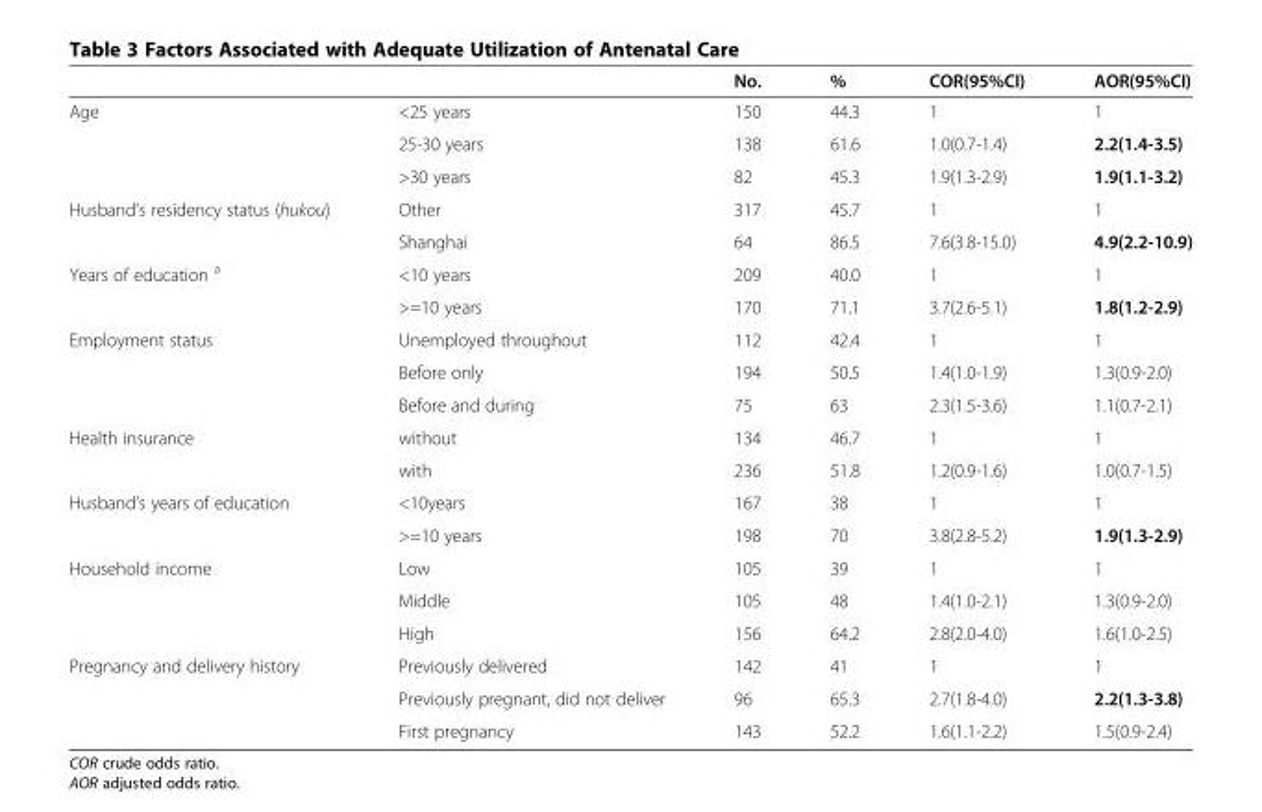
<table><thead><tr><td></td><td></td><td>No.</td><td>%</td><td>COR(95%CI)</td><td>AOR(95%CI)</td></tr></thead><tbody><tr><td rowspan="3">Age</td><td>&lt;25 years</td><td>150</td><td>44.3</td><td>1</td><td>1</td></tr><tr><td>25-30 years</td><td>138</td><td>61.6</td><td>1.0(0.7-1.4)</td><td>2.2(1.4-3.5)</td></tr><tr><td>&gt;30 years</td><td>82</td><td>45.3</td><td>1.9(1.3-2.9)</td><td>1.9(1.1-3.2)</td></tr><tr><td rowspan="2">Husband’s residency status (hukou)</td><td>Other</td><td>317</td><td>45.7</td><td>1</td><td>1</td></tr><tr><td>Shanghai</td><td>64</td><td>86.5</td><td>7.6(3.8-15.0)</td><td>4.9(2.2-10.9)</td></tr><tr><td rowspan="2">Years of education <sup>a</sup></td><td>&lt;10 years</td><td>209</td><td>40.0</td><td>1</td><td>1</td></tr><tr><td>&gt;=10 years</td><td>170</td><td>71.1</td><td>3.7(2.6-5.1)</td><td>1.8(1.2-2.9)</td></tr><tr><td rowspan="3">Employment status</td><td>Unemployed throughout</td><td>112</td><td>42.4</td><td>1</td><td>1</td></tr><tr><td>Before only</td><td>194</td><td>50.5</td><td>1.4(1.0-1.9)</td><td>1.3(0.9-2.0)</td></tr><tr><td>Before and during</td><td>75</td><td>63</td><td>2.3(1.5-3.6)</td><td>1.1(0.7-2.1)</td></tr><tr><td rowspan="2">Health insurance</td><td>without</td><td>134</td><td>46.7</td><td>1</td><td>1</td></tr><tr><td>with</td><td>236</td><td>51.8</td><td>1.2(0.9-1.6)</td><td>1.0(0.7-1.5)</td></tr><tr><td rowspan="2">Husband’s years of education</td><td>&lt;10years</td><td>167</td><td>38</td><td>1</td><td>1</td></tr><tr><td>&gt;=10 years</td><td>198</td><td>70</td><td>3.8(2.8-5.2)</td><td>1.9(1.3-2.9)</td></tr><tr><td rowspan="3">Household income</td><td>Low</td><td>105</td><td>39</td><td>1</td><td>1</td></tr><tr><td>Middle</td><td>105</td><td>48</td><td>1.4(1.0-2.1)</td><td>1.3(0.9-2.0)</td></tr><tr><td>High</td><td>156</td><td>64.2</td><td>2.8(2.0-4.0)</td><td>1.6(1.0-2.5)</td></tr><tr><td rowspan="3">Pregnancy and delivery history</td><td>Previously delivered</td><td>142</td><td>41</td><td>1</td><td>1</td></tr><tr><td>Previously pregnant, did not deliver</td><td>96</td><td>65.3</td><td>2.7(1.8-4.0)</td><td>2.2(1.3-3.8)</td></tr><tr><td>First pregnancy</td><td>143</td><td>52.2</td><td>1.6(1.1-2.2)</td><td>1.5(0.9-2.4)</td></tr></tbody></table>